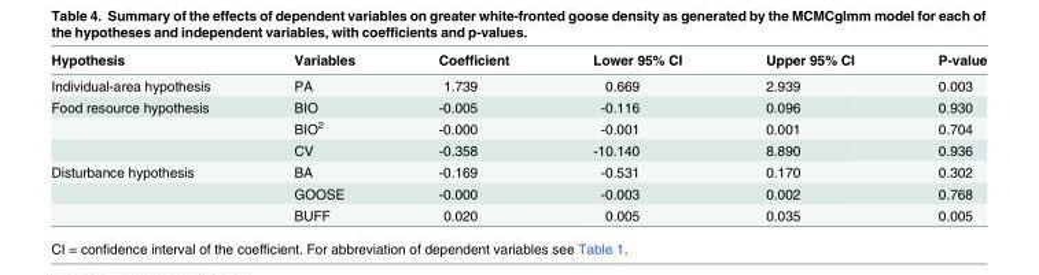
<table><thead><tr><td>Hypothesis</td><td>Variables</td><td>Coefficient</td><td>Lower 95% CI</td><td>Upper 95% CI</td><td>P-value</td></tr></thead><tbody><tr><td>Individual-area hypothesis</td><td>PA</td><td>1.739</td><td>0.669</td><td>2.939</td><td>0.003</td></tr><tr><td rowspan="3">Food resource hypothesis</td><td>BIO</td><td>-0.005</td><td>-0.116</td><td>0.096</td><td>0.930</td></tr><tr><td>BIO<sup>2</sup></td><td>-0.000</td><td>-0.001</td><td>0.001</td><td>0.704</td></tr><tr><td>CV</td><td>-0.358</td><td>-10.140</td><td>8.890</td><td>0.936</td></tr><tr><td rowspan="3">Disturbance hypothesis</td><td>BA</td><td>-0.169</td><td>-0.531</td><td>0.170</td><td>0.302</td></tr><tr><td>GOOSE</td><td>-0.000</td><td>-0.003</td><td>0.002</td><td>0.768</td></tr><tr><td>BUFF</td><td>0.020</td><td>0.005</td><td>0.035</td><td>0.005</td></tr></tbody></table>